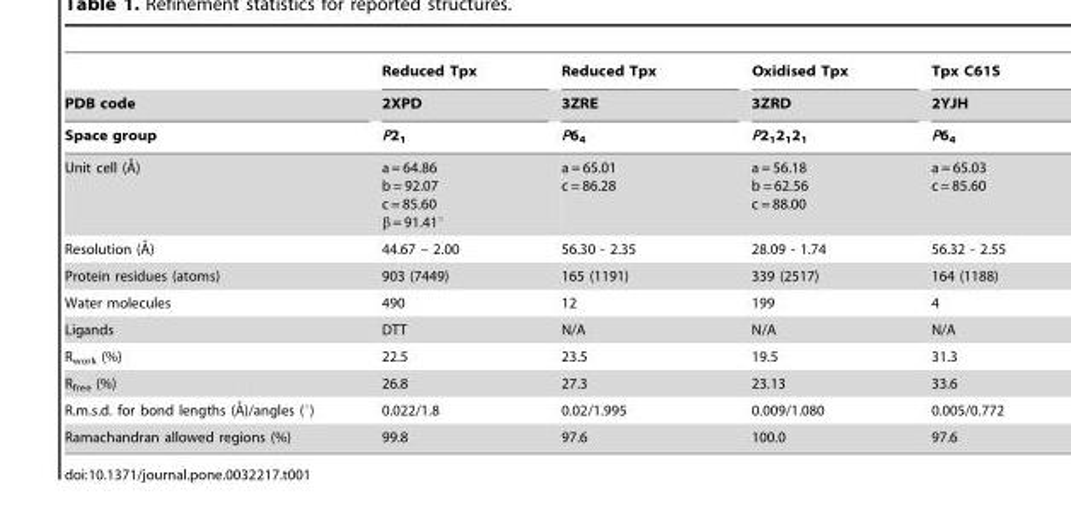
<table><thead><tr><td rowspan="3">PDB code Space group</td><td rowspan="3">Reduced Tpx 2XPD P2<sub>1</sub></td><td rowspan="3">Reduced Tpx 3ZRE P6<sub>4</sub></td><td rowspan="3">Oxidised Tpx 3ZRD P2<sub>1</sub>2<sub>1</sub>2<sub>1</sub></td><td rowspan="3">Tpx C61S 2YJH P6<sub>4</sub></td></tr><tr></tr><tr></tr></thead><tbody><tr><td>Unit cell (A˚)</td><td>a = 64.86 b = 92.07 c = 85.60 β = 91.41°</td><td>a = 65.01 c = 86.28</td><td>a = 56.18 b = 62.56 c = 88.00</td><td>a = 65.03 c = 85.60</td></tr><tr><td>Resolution (A˚)</td><td>44.67 – 2.00</td><td>56.30 - 2.35</td><td>28.09 - 1.74</td><td>56.32 - 2.55</td></tr><tr><td>Protein residues (atoms)</td><td>903 (7449)</td><td>165 (1191)</td><td>339 (2517)</td><td>164 (1188)</td></tr><tr><td>Water molecules</td><td>490</td><td>12</td><td>199</td><td>4</td></tr><tr><td>Ligands</td><td>DTT</td><td>N/A</td><td>N/A</td><td>N/A</td></tr><tr><td>R<sub>work</sub> (%)</td><td>22.5</td><td>23.5</td><td>19.5</td><td>31.3</td></tr><tr><td>R<sub>free</sub> (%)</td><td>26.8</td><td>27.3</td><td>23.13</td><td>33.6</td></tr><tr><td>R.m.s.d. for bond lengths (A˚)/angles (u)</td><td>0.022/1.8</td><td>0.02/1.995</td><td>0.009/1.080</td><td>0.005/0.772</td></tr><tr><td>Ramachandran allowed regions (%)</td><td>99.8</td><td>97.6</td><td>100.0</td><td>97.6</td></tr></tbody></table>